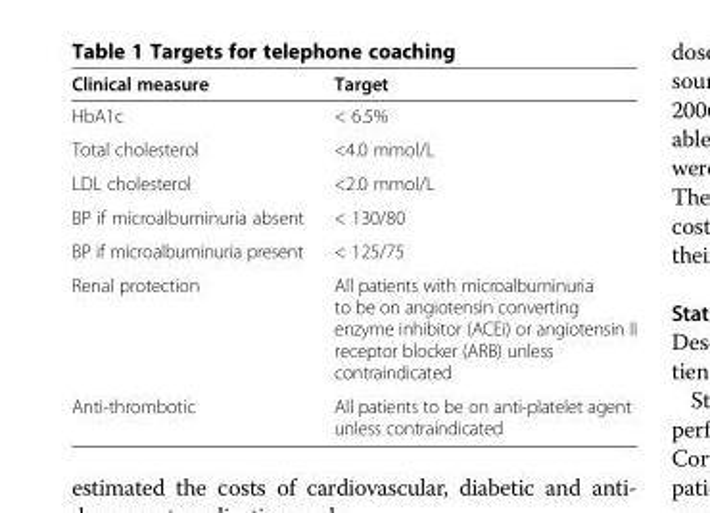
<table><thead><tr><td>Clinical measure</td><td>Target</td></tr></thead><tbody><tr><td>HbA1c</td><td>&lt; 6.5%</td></tr><tr><td>Total cholesterol</td><td>&lt;4.0 mmol/L</td></tr><tr><td>LDL cholesterol</td><td>&lt;2.0 mmol/L</td></tr><tr><td>BP if microalbuminuria absent</td><td>&lt; 130/80</td></tr><tr><td>BP if microalbuminuria present</td><td>&lt; 125/75</td></tr><tr><td>Renal protection</td><td>All patients with microalbuminuria to be on angiotensin converting enzyme inhibitor (ACEi) or angiotensin II receptor blocker (ARB) unless contraindicated</td></tr><tr><td>Anti-thrombotic</td><td>All patients to be on anti-platelet agent unless contraindicated</td></tr></tbody></table>